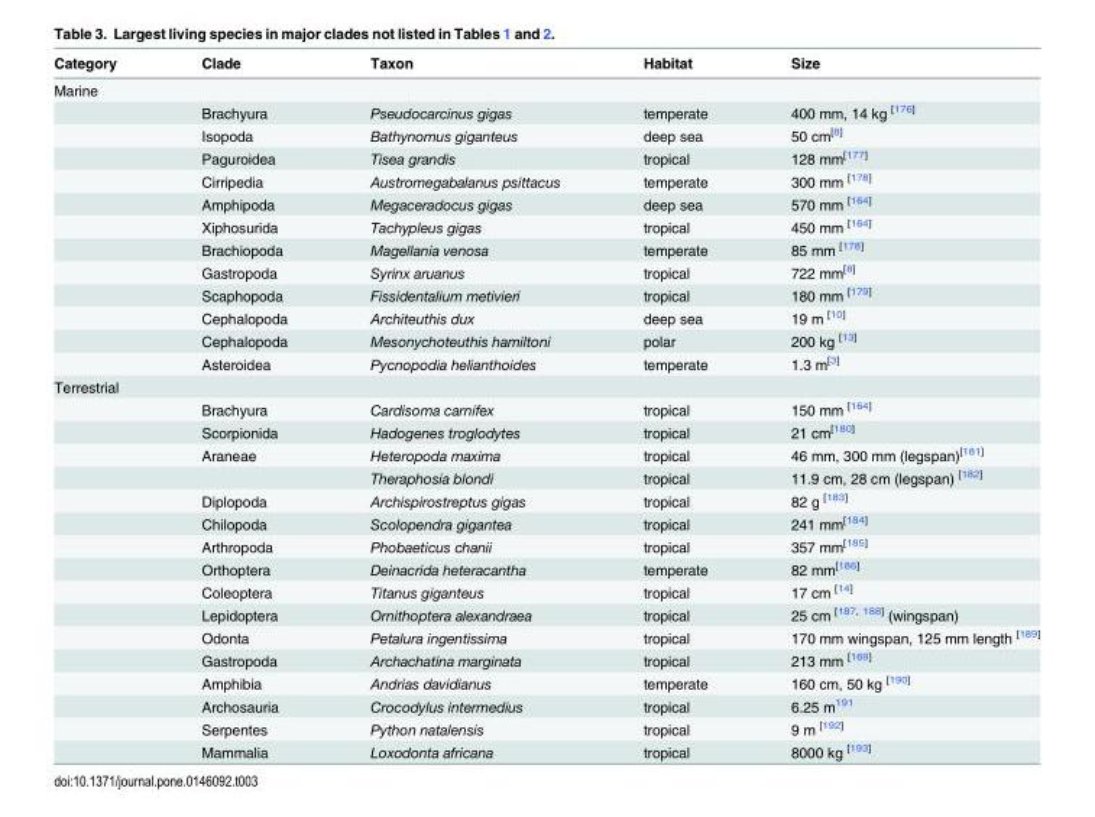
<table><thead><tr><td>Category</td><td>Clade</td><td>Taxon</td><td>Habitat</td><td>Size</td></tr></thead><tbody><tr><td colspan="5">Marine</td></tr><tr><td></td><td>Brachyura</td><td>Pseudocarcinus gigas</td><td>temperate</td><td>400 mm, 14 kg <sup>[176]</sup></td></tr><tr><td></td><td>Isopoda</td><td>Bathynomus giganteus</td><td>deep sea</td><td>50 cm<sup>[8]</sup></td></tr><tr><td></td><td>Paguroidea</td><td>Tisea grandis</td><td>tropical</td><td>128 mm<sup>[177]</sup></td></tr><tr><td></td><td>Cirripedia</td><td>Austromegabalanus psittacus</td><td>temperate</td><td>300 mm <sup>[178]</sup></td></tr><tr><td></td><td>Amphipoda</td><td>Megaceradocus gigas</td><td>deep sea</td><td>570 mm <sup>[164]</sup></td></tr><tr><td></td><td>Xiphosurida</td><td>Tachypleus gigas</td><td>tropical</td><td>450 mm <sup>[164]</sup></td></tr><tr><td></td><td>Brachiopoda</td><td>Magellania venosa</td><td>temperate</td><td>85 mm <sup>[178]</sup></td></tr><tr><td></td><td>Gastropoda</td><td>Syrinx aruanus</td><td>tropical</td><td>722 mm<sup>[8]</sup></td></tr><tr><td></td><td>Scaphopoda</td><td>Fissidentalium metivieri</td><td>tropical</td><td>180 mm <sup>[179]</sup></td></tr><tr><td></td><td>Cephalopoda</td><td>Architeuthis dux</td><td>deep sea</td><td>19 m <sup>[10]</sup></td></tr><tr><td></td><td>Cephalopoda</td><td>Mesonychoteuthis hamiltoni</td><td>polar</td><td>200 kg <sup>[13]</sup></td></tr><tr><td></td><td>Asteroidea</td><td>Pycnopodia helianthoides</td><td>temperate</td><td>1.3 m<sup>[3]</sup></td></tr><tr><td colspan="5">Terrestrial</td></tr><tr><td></td><td>Brachyura</td><td>Cardisoma carnifex</td><td>tropical</td><td>150 mm <sup>[164]</sup></td></tr><tr><td></td><td>Scorpionida</td><td>Hadogenes troglodytes</td><td>tropical</td><td>21 cm<sup>[180]</sup></td></tr><tr><td></td><td>Araneae</td><td>Heteropoda maxima</td><td>tropical</td><td>46 mm, 300 mm (legspan)<sup>[181]</sup></td></tr><tr><td></td><td></td><td>Theraphosia blondi</td><td>tropical</td><td>11.9 cm, 28 cm (legspan) <sup>[182]</sup></td></tr><tr><td></td><td>Diplopoda</td><td>Archispirostreptus gigas</td><td>tropical</td><td>82 g <sup>[183]</sup></td></tr><tr><td></td><td>Chilopoda</td><td>Scolopendra gigantea</td><td>tropical</td><td>241 mm<sup>[184]</sup></td></tr><tr><td></td><td>Arthropoda</td><td>Phobaeticus chanii</td><td>tropical</td><td>357 mm<sup>[185]</sup></td></tr><tr><td></td><td>Orthoptera</td><td>Deinacrida heteracantha</td><td>temperate</td><td>82 mm<sup>[186]</sup></td></tr><tr><td></td><td>Coleoptera</td><td>Titanus giganteus</td><td>tropical</td><td>17 cm <sup>[14]</sup></td></tr><tr><td></td><td>Lepidoptera</td><td>Ornithoptera alexandraea</td><td>tropical</td><td>25 cm <sup>[187, 188]</sup> (wingspan)</td></tr><tr><td></td><td>Odonta</td><td>Petalura ingentissima</td><td>tropical</td><td>170 mm wingspan, 125 mm length <sup>[189]</sup></td></tr><tr><td></td><td>Gastropoda</td><td>Archachatina marginata</td><td>tropical</td><td>213 mm <sup>[169]</sup></td></tr><tr><td></td><td>Amphibia</td><td>Andrias davidianus</td><td>temperate</td><td>160 cm, 50 kg <sup>[190]</sup></td></tr><tr><td></td><td>Archosauria</td><td>Crocodylus intermedius</td><td>tropical</td><td>6.25 m<sup>191</sup></td></tr><tr><td></td><td>Serpentes</td><td>Python natalensis</td><td>tropical</td><td>9 m <sup>[192]</sup></td></tr><tr><td></td><td>Mammalia</td><td>Loxodonta africana</td><td>tropical</td><td>8000 kg <sup>[193]</sup></td></tr></tbody></table>